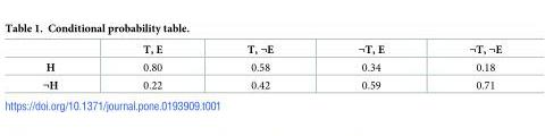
<table><thead><tr><td></td><td>T, E</td><td>T, ¬E</td><td>¬T, E</td><td>¬T, ¬E</td></tr></thead><tbody><tr><td>H</td><td>0.80</td><td>0.58</td><td>0.34</td><td>0.18</td></tr><tr><td>¬H</td><td>0.22</td><td>0.42</td><td>0.59</td><td>0.71</td></tr></tbody></table>